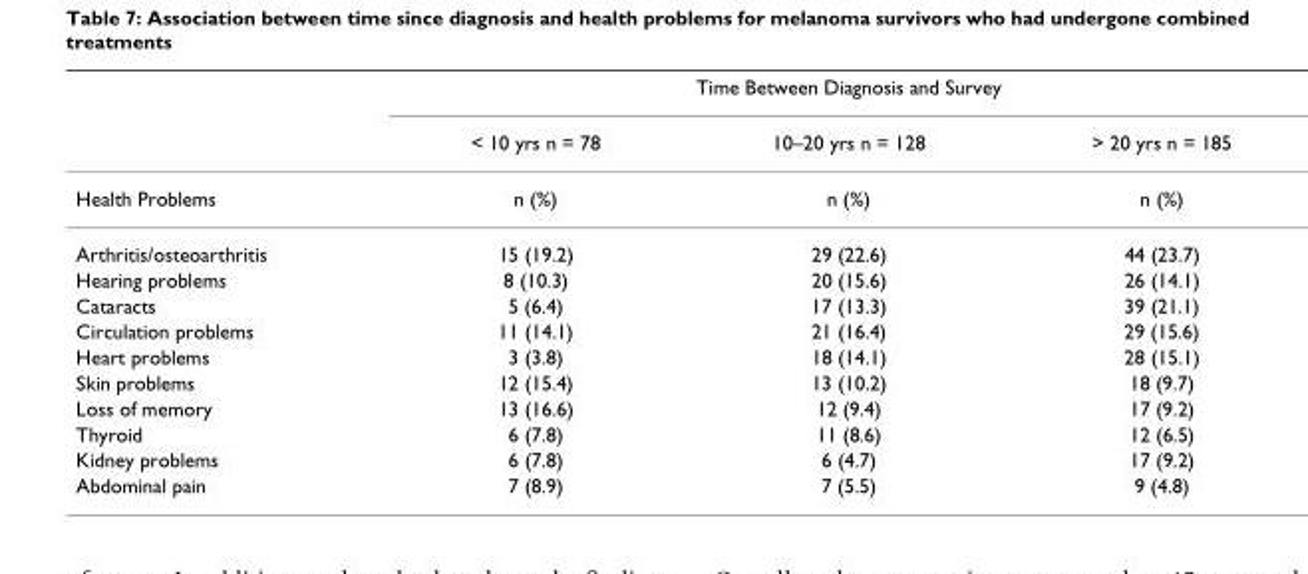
<table><thead><tr><td rowspan="2"></td><td colspan="3">Time Between Diagnosis and Survey</td></tr><tr><td>&lt; 10 yrs n = 78</td><td>10–20 yrs n = 128</td><td>&gt; 20 yrs n = 185</td></tr></thead><tbody><tr><td>Health Problems</td><td>n (%)</td><td>n (%)</td><td>n (%)</td></tr><tr><td>Arthritis/osteoarthritis</td><td>15 (19.2)</td><td>29 (22.6)</td><td>44 (23.7)</td></tr><tr><td>Hearing problems</td><td>8 (10.3)</td><td>20 (15.6)</td><td>26 (14.1)</td></tr><tr><td>Cataracts</td><td>5 (6.4)</td><td>17 (13.3)</td><td>39 (21.1)</td></tr><tr><td>Circulation problems</td><td>11 (14.1)</td><td>21 (16.4)</td><td>29 (15.6)</td></tr><tr><td>Heart problems</td><td>3 (3.8)</td><td>18 (14.1)</td><td>28 (15.1)</td></tr><tr><td>Skin problems</td><td>12 (15.4)</td><td>13 (10.2)</td><td>18 (9.7)</td></tr><tr><td>Loss of memory</td><td>13 (16.6)</td><td>12 (9.4)</td><td>17 (9.2)</td></tr><tr><td>Thyroid</td><td>6 (7.8)</td><td>11 (8.6)</td><td>12 (6.5)</td></tr><tr><td>Kidney problems</td><td>6 (7.8)</td><td>6 (4.7)</td><td>17 (9.2)</td></tr><tr><td>Abdominal pain</td><td>7 (8.9)</td><td>7 (5.5)</td><td>9 (4.8)</td></tr></tbody></table>